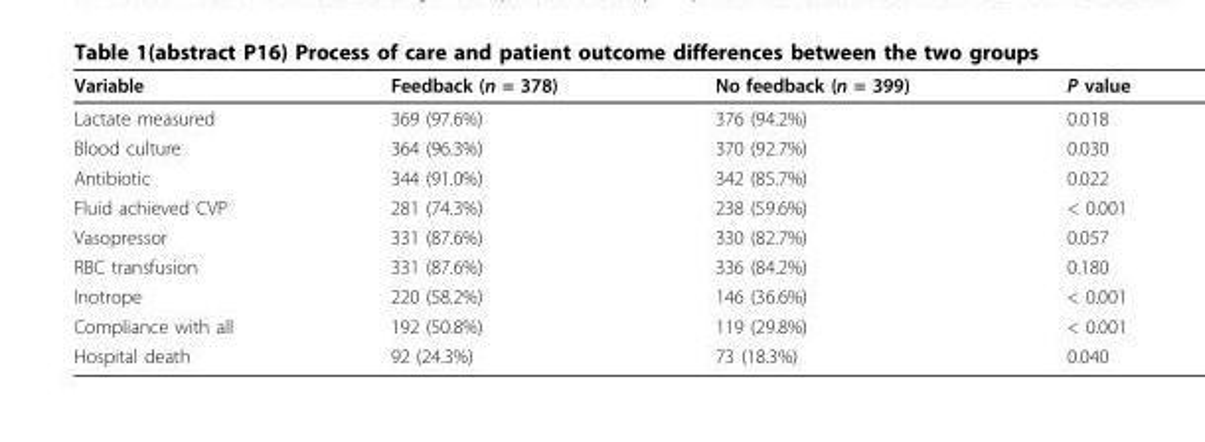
<table><thead><tr><td>Variable</td><td>Feedback (n = 378)</td><td>No feedback (n = 399)</td><td>P value</td></tr></thead><tbody><tr><td>Lactate measured</td><td>369 (97.6%)</td><td>376 (94.2%)</td><td>0.018</td></tr><tr><td>Blood culture</td><td>364 (96.3%)</td><td>370 (92.7%)</td><td>0.030</td></tr><tr><td>Antibiotic</td><td>344 (91.0%)</td><td>342 (85.7%)</td><td>0.022</td></tr><tr><td>Fluid achieved CVP</td><td>281 (74.3%)</td><td>238 (59.6%)</td><td>&lt; 0.001</td></tr><tr><td>Vasopressor</td><td>331 (87.6%)</td><td>330 (82.7%)</td><td>0.057</td></tr><tr><td>RBC transfusion</td><td>331 (87.6%)</td><td>336 (84.2%)</td><td>0.180</td></tr><tr><td>Inotrope</td><td>220 (58.2%)</td><td>146 (36.6%)</td><td>&lt; 0.001</td></tr><tr><td>Compliance with all</td><td>192 (50.8%)</td><td>119 (29.8%)</td><td>&lt; 0.001</td></tr><tr><td>Hospital death</td><td>92 (24.3%)</td><td>73 (18.3%)</td><td>0.040</td></tr></tbody></table>